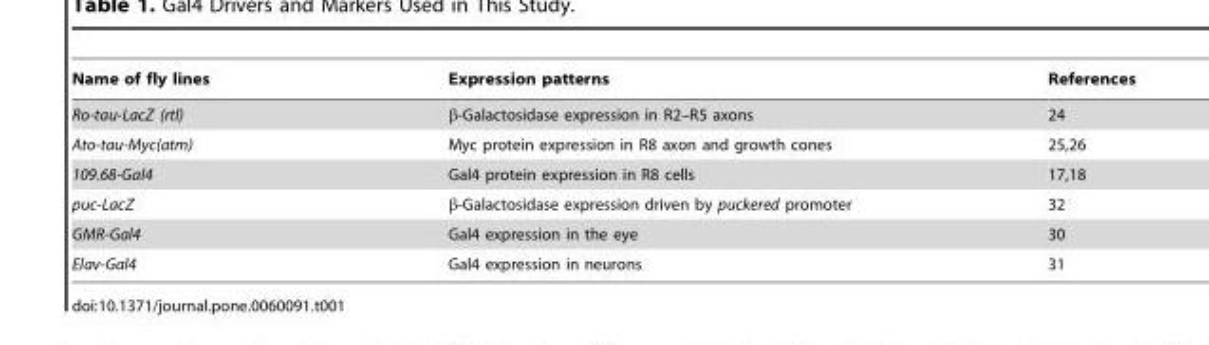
<table><thead><tr><td>Name of fly lines</td><td>Expression patterns</td><td>References</td></tr></thead><tbody><tr><td>Ro-tau-LacZ (rtl)</td><td>β-Galactosidase expression in R2–R5 axons</td><td>24</td></tr><tr><td>Ato-tau-Myc(atm)</td><td>Myc protein expression in R8 axon and growth cones</td><td>25,26</td></tr><tr><td>109.68-Gal4</td><td>Gal4 protein expression in R8 cells</td><td>17,18</td></tr><tr><td>puc-LacZ</td><td>β-Galactosidase expression driven by puckered promoter</td><td>32</td></tr><tr><td>GMR-Gal4</td><td>Gal4 expression in the eye</td><td>30</td></tr><tr><td>Elav-Gal4</td><td>Gal4 expression in neurons</td><td>31</td></tr></tbody></table>